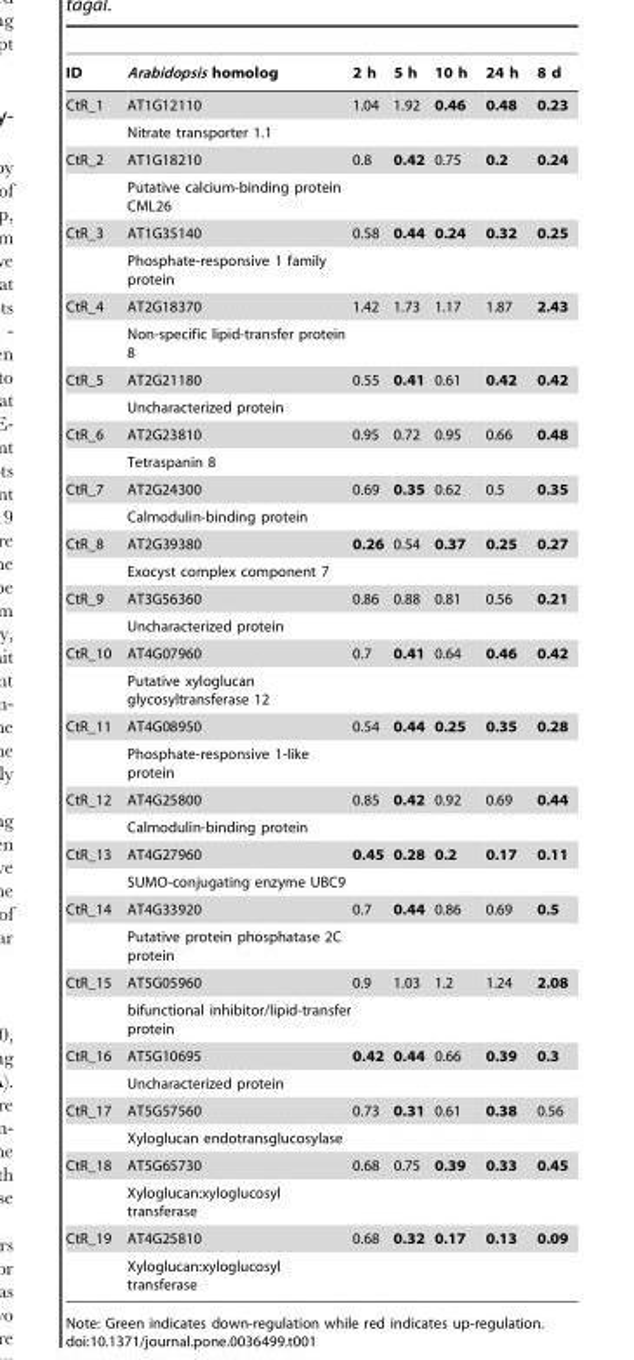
<table><thead><tr><td>ID</td><td>Arabidopsis homolog</td><td>2 h</td><td>5 h</td><td>10 h</td><td>24 h</td><td>8 d</td></tr></thead><tbody><tr><td rowspan="2">CtR_1</td><td>AT1G12110</td><td>1.04</td><td>1.92</td><td>0.46</td><td>0.48</td><td>0.23</td></tr><tr><td>Nitrate transporter 1.1</td><td></td><td></td><td></td><td></td><td></td></tr><tr><td rowspan="2">CtR_2</td><td>AT1G18210</td><td>0.8</td><td>0.42</td><td>0.75</td><td>0.2</td><td>0.24</td></tr><tr><td>Putative calcium-binding protein CML26</td><td></td><td></td><td></td><td></td><td></td></tr><tr><td rowspan="2">CtR_3</td><td>AT1G35140</td><td>0.58</td><td>0.44</td><td>0.24</td><td>0.32</td><td>0.25</td></tr><tr><td>Phosphate-responsive 1 family protein</td><td></td><td></td><td></td><td></td><td></td></tr><tr><td rowspan="2">CtR_4</td><td>AT2G18370</td><td>1.42</td><td>1.73</td><td>1.17</td><td>1.87</td><td>2.43</td></tr><tr><td>Non-specific lipid-transfer protein 8</td><td></td><td></td><td></td><td></td><td></td></tr><tr><td rowspan="2">CtR_5</td><td>AT2G21180</td><td>0.55</td><td>0.41</td><td>0.61</td><td>0.42</td><td>0.42</td></tr><tr><td>Uncharacterized protein</td><td></td><td></td><td></td><td></td><td></td></tr><tr><td rowspan="2">CtR_6</td><td>AT2G23810</td><td>0.95</td><td>0.72</td><td>0.95</td><td>0.66</td><td>0.48</td></tr><tr><td>Tetraspanin 8</td><td></td><td></td><td></td><td></td><td></td></tr><tr><td rowspan="2">CtR_7</td><td>AT2G24300</td><td>0.69</td><td>0.35</td><td>0.62</td><td>0.5</td><td>0.35</td></tr><tr><td>Calmodulin-binding protein</td><td></td><td></td><td></td><td></td><td></td></tr><tr><td rowspan="2">CtR_8</td><td>AT2G39380</td><td>0.26</td><td>0.54</td><td>0.37</td><td>0.25</td><td>0.27</td></tr><tr><td>Exocyst complex component 7</td><td></td><td></td><td></td><td></td><td></td></tr><tr><td rowspan="2">CtR_9</td><td>AT3G56360</td><td>0.86</td><td>0.88</td><td>0.81</td><td>0.56</td><td>0.21</td></tr><tr><td>Uncharacterized protein</td><td></td><td></td><td></td><td></td><td></td></tr><tr><td rowspan="2">CtR_10</td><td>AT4G07960</td><td>0.7</td><td>0.41</td><td>0.64</td><td>0.46</td><td>0.42</td></tr><tr><td>Putative xyloglucan glycosyltransferase 12</td><td></td><td></td><td></td><td></td><td></td></tr><tr><td rowspan="2">CtR_11</td><td>AT4G08950</td><td>0.54</td><td>0.44</td><td>0.25</td><td>0.35</td><td>0.28</td></tr><tr><td>Phosphate-responsive 1-like protein</td><td></td><td></td><td></td><td></td><td></td></tr><tr><td rowspan="2">CtR_12</td><td>AT4G25800</td><td>0.85</td><td>0.42</td><td>0.92</td><td>0.69</td><td>0.44</td></tr><tr><td>Calmodulin-binding protein</td><td></td><td></td><td></td><td></td><td></td></tr><tr><td rowspan="2">CtR_13</td><td>AT4G27960</td><td>0.45</td><td>0.28</td><td>0.2</td><td>0.17</td><td>0.11</td></tr><tr><td>SUMO-conjugating enzyme UBC9</td><td></td><td></td><td></td><td></td><td></td></tr><tr><td rowspan="2">CtR_14</td><td>AT4G33920</td><td>0.7</td><td>0.44</td><td>0.86</td><td>0.69</td><td>0.5</td></tr><tr><td>Putative protein phosphatase 2C protein</td><td></td><td></td><td></td><td></td><td></td></tr><tr><td rowspan="2">CtR_15</td><td>AT5G05960</td><td>0.9</td><td>1.03</td><td>1.2</td><td>1.24</td><td>2.08</td></tr><tr><td>bifunctional inhibitor/lipid-transfer protein</td><td></td><td></td><td></td><td></td><td></td></tr><tr><td rowspan="2">CtR_16</td><td>AT5G10695</td><td>0.42</td><td>0.44</td><td>0.66</td><td>0.39</td><td>0.3</td></tr><tr><td>Uncharacterized protein</td><td></td><td></td><td></td><td></td><td></td></tr><tr><td rowspan="2">CtR_17</td><td>AT5G57560</td><td>0.73</td><td>0.31</td><td>0.61</td><td>0.38</td><td>0.56</td></tr><tr><td>Xyloglucan endotransglucosylase</td><td></td><td></td><td></td><td></td><td></td></tr><tr><td rowspan="2">CtR_18</td><td>AT5G65730</td><td>0.68</td><td>0.75</td><td>0.39</td><td>0.33</td><td>0.45</td></tr><tr><td>Xyloglucan:xyloglucosyl transferase</td><td></td><td></td><td></td><td></td><td></td></tr><tr><td rowspan="2">CtR_19</td><td>AT4G25810</td><td>0.68</td><td>0.32</td><td>0.17</td><td>0.13</td><td>0.09</td></tr><tr><td>Xyloglucan:xyloglucosyl transferase</td><td></td><td></td><td></td><td></td><td></td></tr></tbody></table>